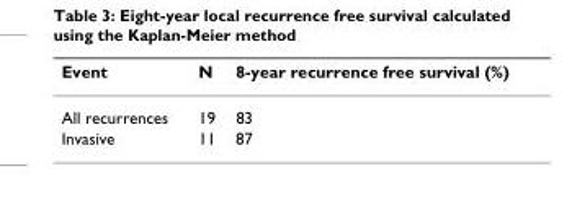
<table><thead><tr><td>Event</td><td>N</td><td>8-year recurrence free survival (%)</td></tr></thead><tbody><tr><td>All recurrences</td><td>19</td><td>83</td></tr><tr><td>Invasive</td><td>11</td><td>87</td></tr></tbody></table>